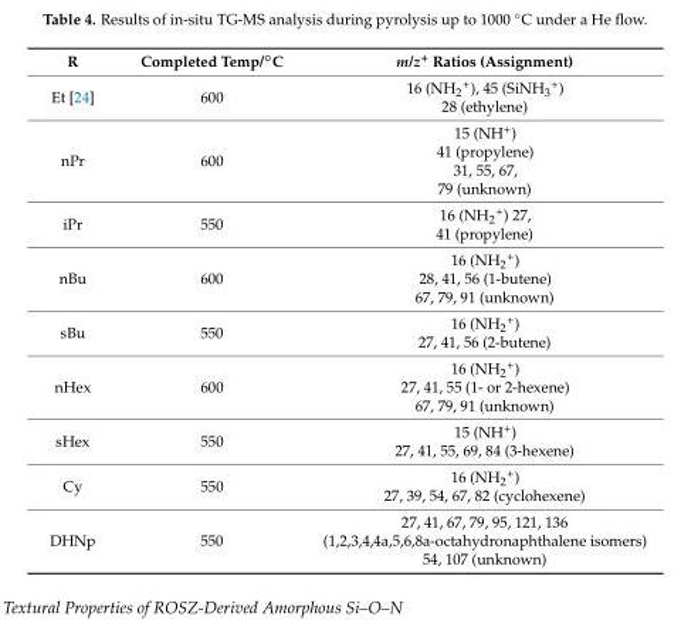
<table><thead><tr><td>R</td><td>Completed Temp/◦C</td><td>m/z<sup>+</sup> Ratios (Assignment)</td></tr></thead><tbody><tr><td>Et [24]</td><td>600</td><td>16 (NH<sub>2</sub><sup>+</sup>), 45 (SiNH<sub>3</sub><sup>+</sup>) 28 (ethylene)</td></tr><tr><td>nPr</td><td>600</td><td>15 (NH<sup>+</sup>) 41 (propylene) 31, 55, 67, 79 (unknown)</td></tr><tr><td>iPr</td><td>550</td><td>16 (NH<sub>2</sub><sup>+</sup>) 27, 41 (propylene)</td></tr><tr><td>nBu</td><td>600</td><td>16 (NH<sub>2</sub><sup>+</sup>) 28, 41, 56 (1-butene) 67, 79, 91 (unknown)</td></tr><tr><td>sBu</td><td>550</td><td>16 (NH<sub>2</sub><sup>+</sup>) 27, 41, 56 (2-butene)</td></tr><tr><td>nHex</td><td>600</td><td>16 (NH<sub>2</sub><sup>+</sup>) 27, 41, 55 (1- or 2-hexene) 67, 79, 91 (unknown)</td></tr><tr><td>sHex</td><td>550</td><td>15 (NH<sup>+</sup>) 27, 41, 55, 69, 84 (3-hexene)</td></tr><tr><td>Cy</td><td>550</td><td>16 (NH<sub>2</sub><sup>+</sup>) 27, 39, 54, 67, 82 (cyclohexene)</td></tr><tr><td>DHNp</td><td>550</td><td>27, 41, 67, 79, 95, 121, 136 (1,2,3,4,4a,5,6,8a-octahydronaphthalene isomers) 54, 107 (unknown)</td></tr></tbody></table>